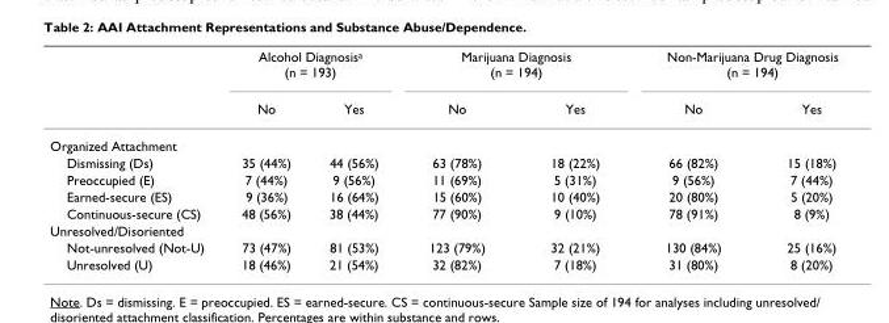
<table><thead><tr><td rowspan="2"></td><td colspan="2">Alcohol Diagnosis<sup>a</sup> (n = 193)</td><td colspan="2">Marijuana Diagnosis (n = 194)</td><td colspan="2">Non-Marijuana Drug Diagnosis (n = 194)</td></tr><tr><td>No</td><td>Yes</td><td>No</td><td>Yes</td><td>No</td><td>Yes</td></tr></thead><tbody><tr><td colspan="7">Organized Attachment</td></tr><tr><td>Dismissing (Ds)</td><td>35 (44%)</td><td>44 (56%)</td><td>63 (78%)</td><td>18 (22%)</td><td>66 (82%)</td><td>15 (18%)</td></tr><tr><td>Preoccupied (E)</td><td>7 (44%)</td><td>9 (56%)</td><td>11 (69%)</td><td>5 (31%)</td><td>9 (56%)</td><td>7 (44%)</td></tr><tr><td>Earned-secure (ES)</td><td>9 (36%)</td><td>16 (64%)</td><td>15 (60%)</td><td>10 (40%)</td><td>20 (80%)</td><td>5 (20%)</td></tr><tr><td>Continuous-secure (CS)</td><td>48 (56%)</td><td>38 (44%)</td><td>77 (90%)</td><td>9 (10%)</td><td>78 (91%)</td><td>8 (9%)</td></tr><tr><td colspan="7">Unresolved/Disoriented</td></tr><tr><td>Not-unresolved (Not-U)</td><td>73 (47%)</td><td>81 (53%)</td><td>123 (79%)</td><td>32 (21%)</td><td>130 (84%)</td><td>25 (16%)</td></tr><tr><td>Unresolved (U)</td><td>18 (46%)</td><td>21 (54%)</td><td>32 (82%)</td><td>7 (18%)</td><td>31 (80%)</td><td>8 (20%)</td></tr></tbody></table>